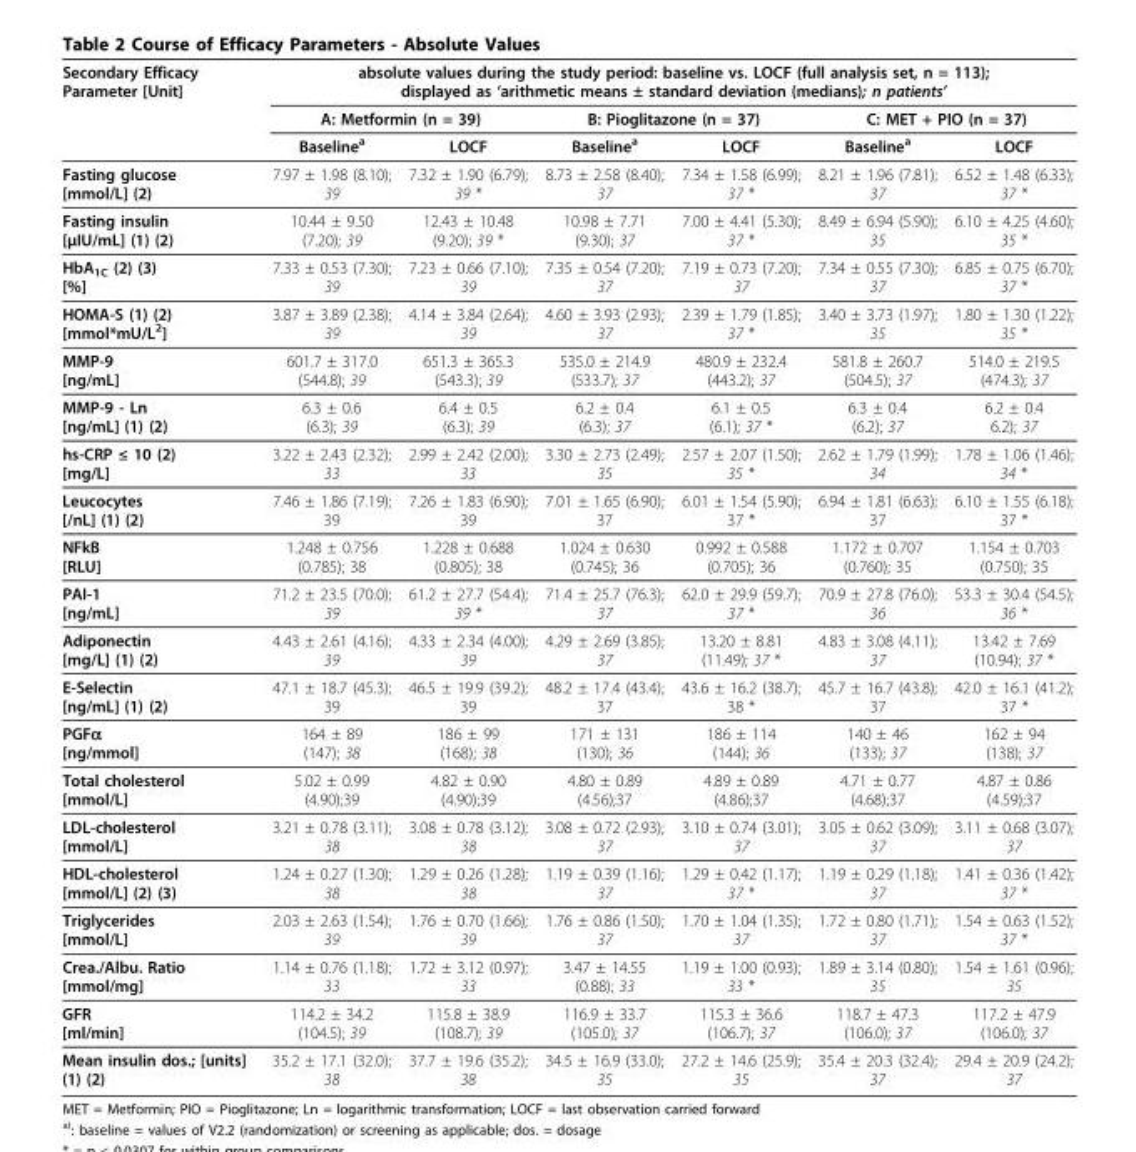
<table><thead><tr><td rowspan="3">Secondary Efficacy Parameter [Unit]</td><td colspan="6">absolute values during the study period: baseline vs. LOCF (full analysis set, n = 113); displayed as ‘arithmetic means ± standard deviation (medians); n patients’</td></tr><tr><td colspan="2">A: Metformin (n = 39)</td><td colspan="2">B: Pioglitazone (n = 37)</td><td colspan="2">C: MET + PIO (n = 37)</td></tr><tr><td>Baseline<sup>a</sup></td><td>LOCF</td><td>Baseline<sup>a</sup></td><td>LOCF</td><td>Baseline<sup>a</sup></td><td>LOCF</td></tr></thead><tbody><tr><td>Fasting glucose [mmol/L] (2)</td><td>7.97 ± 1.98 (8.10); 39</td><td>7.32 ± 1.90 (6.79); 39 *</td><td>8.73 ± 2.58 (8.40); 37</td><td>7.34 ± 1.58 (6.99); 37 *</td><td>8.21 ± 1.96 (7.81); 37</td><td>6.52 ± 1.48 (6.33); 37 *</td></tr><tr><td>Fasting insulin [μIU/mL] (1) (2)</td><td>10.44 ± 9.50 (7.20); 39</td><td>12.43 ± 10.48 (9.20); 39 *</td><td>10.98 ± 7.71 (9.30); 37</td><td>7.00 ± 4.41 (5.30); 37 *</td><td>8.49 ± 6.94 (5.90); 35</td><td>6.10 ± 4.25 (4.60); 35 *</td></tr><tr><td>HbA<sub>1C</sub> (2) (3) [%]</td><td>7.33 ± 0.53 (7.30); 39</td><td>7.23 ± 0.66 (7.10); 39</td><td>7.35 ± 0.54 (7.20); 37</td><td>7.19 ± 0.73 (7.20); 37</td><td>7.34 ± 0.55 (7.30); 37</td><td>6.85 ± 0.75 (6.70); 37 *</td></tr><tr><td>HOMA-S (1) (2) [mmol*mU/L<sup>2</sup>]</td><td>3.87 ± 3.89 (2.38); 39</td><td>4.14 ± 3.84 (2.64); 39</td><td>4.60 ± 3.93 (2.93); 37</td><td>2.39 ± 1.79 (1.85); 37 *</td><td>3.40 ± 3.73 (1.97); 35</td><td>1.80 ± 1.30 (1.22); 35 *</td></tr><tr><td>MMP-9 [ng/mL]</td><td>601.7 ± 317.0 (544.8); 39</td><td>651.3 ± 365.3 (543.3); 39</td><td>535.0 ± 214.9 (533.7); 37</td><td>480.9 ± 232.4 (443.2); 37</td><td>581.8 ± 260.7 (504.5); 37</td><td>514.0 ± 219.5 (474.3); 37</td></tr><tr><td>MMP-9 - Ln [ng/mL] (1) (2)</td><td>6.3 ± 0.6 (6.3); 39</td><td>6.4 ± 0.5 (6.3); 39</td><td>6.2 ± 0.4 (6.3); 37</td><td>6.1 ± 0.5 (6.1); 37 *</td><td>6.3 ± 0.4 (6.2); 37</td><td>6.2 ± 0.4 6.2); 37</td></tr><tr><td>hs-CRP ≤ 10 (2) [mg/L]</td><td>3.22 ± 2.43 (2.32); 33</td><td>2.99 ± 2.42 (2.00); 33</td><td>3.30 ± 2.73 (2.49); 35</td><td>2.57 ± 2.07 (1.50); 35 *</td><td>2.62 ± 1.79 (1.99); 34</td><td>1.78 ± 1.06 (1.46); 34 *</td></tr><tr><td>Leucocytes [/nL] (1) (2)</td><td>7.46 ± 1.86 (7.19); 39</td><td>7.26 ± 1.83 (6.90); 39</td><td>7.01 ± 1.65 (6.90); 37</td><td>6.01 ± 1.54 (5.90); 37 *</td><td>6.94 ± 1.81 (6.63); 37</td><td>6.10 ± 1.55 (6.18); 37 *</td></tr><tr><td>NFkB [RLU]</td><td>1.248 ± 0.756 (0.785); 38</td><td>1.228 ± 0.688 (0.805); 38</td><td>1.024 ± 0.630 (0.745); 36</td><td>0.992 ± 0.588 (0.705); 36</td><td>1.172 ± 0.707 (0.760); 35</td><td>1.154 ± 0.703 (0.750); 35</td></tr><tr><td>PAI-1 [ng/mL]</td><td>71.2 ± 23.5 (70.0); 39</td><td>61.2 ± 27.7 (54.4); 39 *</td><td>71.4 ± 25.7 (76.3); 37</td><td>62.0 ± 29.9 (59.7); 37 *</td><td>70.9 ± 27.8 (76.0); 36</td><td>53.3 ± 30.4 (54.5); 36 *</td></tr><tr><td>Adiponectin [mg/L] (1) (2)</td><td>4.43 ± 2.61 (4.16); 39</td><td>4.33 ± 2.34 (4.00); 39</td><td>4.29 ± 2.69 (3.85); 37</td><td>13.20 ± 8.81 (11.49); 37 *</td><td>4.83 ± 3.08 (4.11); 37</td><td>13.42 ± 7.69 (10.94); 37 *</td></tr><tr><td>E-Selectin [ng/mL] (1) (2)</td><td>47.1 ± 18.7 (45.3); 39</td><td>46.5 ± 19.9 (39.2); 39</td><td>48.2 ± 17.4 (43.4); 37</td><td>43.6 ± 16.2 (38.7); 38 *</td><td>45.7 ± 16.7 (43.8); 37</td><td>42.0 ± 16.1 (41.2); 37 *</td></tr><tr><td>PGFα [ng/mmol]</td><td>164 ± 89 (147); 38</td><td>186 ± 99 (168); 38</td><td>171 ± 131 (130); 36</td><td>186 ± 114 (144); 36</td><td>140 ± 46 (133); 37</td><td>162 ± 94 (138); 37</td></tr><tr><td>Total cholesterol [mmol/L]</td><td>5.02 ± 0.99 (4.90);39</td><td>4.82 ± 0.90 (4.90);39</td><td>4.80 ± 0.89 (4.56);37</td><td>4.89 ± 0.89 (4.86);37</td><td>4.71 ± 0.77 (4.68);37</td><td>4.87 ± 0.86 (4.59);37</td></tr><tr><td>LDL-cholesterol [mmol/L]</td><td>3.21 ± 0.78 (3.11); 38</td><td>3.08 ± 0.78 (3.12); 38</td><td>3.08 ± 0.72 (2.93); 37</td><td>3.10 ± 0.74 (3.01); 37</td><td>3.05 ± 0.62 (3.09); 37</td><td>3.11 ± 0.68 (3.07); 37</td></tr><tr><td>HDL-cholesterol [mmol/L] (2) (3)</td><td>1.24 ± 0.27 (1.30); 38</td><td>1.29 ± 0.26 (1.28); 38</td><td>1.19 ± 0.39 (1.16); 37</td><td>1.29 ± 0.42 (1.17); 37 *</td><td>1.19 ± 0.29 (1.18); 37</td><td>1.41 ± 0.36 (1.42); 37 *</td></tr><tr><td>Triglycerides [mmol/L]</td><td>2.03 ± 2.63 (1.54); 39</td><td>1.76 ± 0.70 (1.66); 39</td><td>1.76 ± 0.86 (1.50); 37</td><td>1.70 ± 1.04 (1.35); 37</td><td>1.72 ± 0.80 (1.71); 37</td><td>1.54 ± 0.63 (1.52); 37 *</td></tr><tr><td>Crea./Albu. Ratio [mmol/mg]</td><td>1.14 ± 0.76 (1.18); 33</td><td>1.72 ± 3.12 (0.97); 33</td><td>3.47 ± 14.55 (0.88); 33</td><td>1.19 ± 1.00 (0.93); 33 *</td><td>1.89 ± 3.14 (0.80); 35</td><td>1.54 ± 1.61 (0.96); 35</td></tr><tr><td>GFR [ml/min]</td><td>114.2 ± 34.2 (104.5); 39</td><td>115.8 ± 38.9 (108.7); 39</td><td>116.9 ± 33.7 (105.0); 37</td><td>115.3 ± 36.6 (106.7); 37</td><td>118.7 ± 47.3 (106.0); 37</td><td>117.2 ± 47.9 (106.0); 37</td></tr><tr><td>Mean insulin dos.; [units] (1) (2)</td><td>35.2 ± 17.1 (32.0); 38</td><td>37.7 ± 19.6 (35.2); 38</td><td>34.5 ± 16.9 (33.0); 35</td><td>27.2 ± 14.6 (25.9); 35</td><td>35.4 ± 20.3 (32.4); 37</td><td>29.4 ± 20.9 (24.2); 37</td></tr></tbody></table>